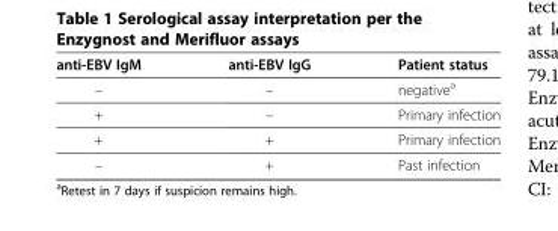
<table><thead><tr><td>anti-EBV IgM</td><td>anti-EBV IgG</td><td>Patient status</td></tr></thead><tbody><tr><td>–</td><td>–</td><td>negative<sup>a</sup></td></tr><tr><td>+</td><td>–</td><td>Primary infection</td></tr><tr><td>+</td><td>+</td><td>Primary infection</td></tr><tr><td>–</td><td>+</td><td>Past infection</td></tr></tbody></table>